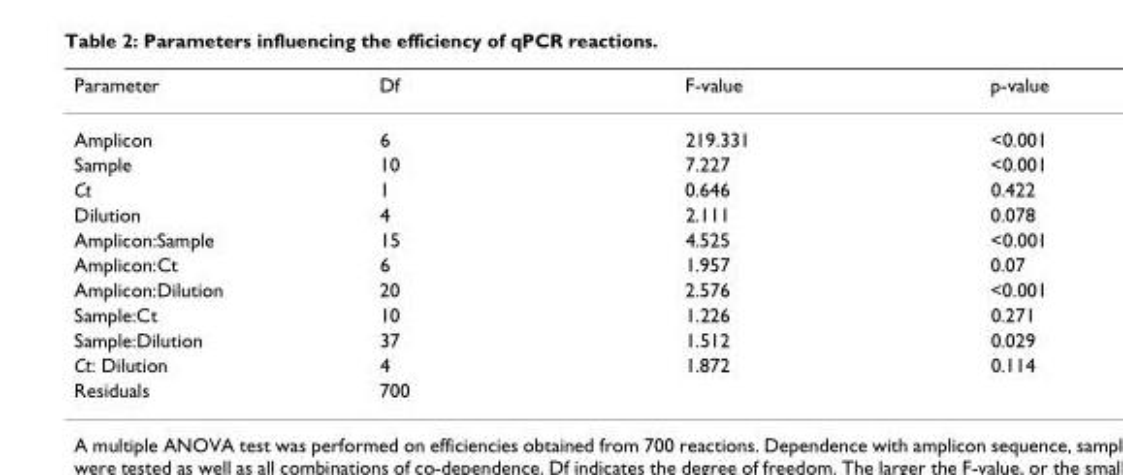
<table><thead><tr><td>Parameter</td><td>Df</td><td>F-value</td><td>p-value</td></tr></thead><tbody><tr><td>Amplicon</td><td>6</td><td>219.331</td><td>&lt;0.001</td></tr><tr><td>Sample</td><td>10</td><td>7.227</td><td>&lt;0.001</td></tr><tr><td>Ct</td><td>1</td><td>0.646</td><td>0.422</td></tr><tr><td>Dilution</td><td>4</td><td>2.111</td><td>0.078</td></tr><tr><td>Amplicon:Sample</td><td>15</td><td>4.525</td><td>&lt;0.001</td></tr><tr><td>Amplicon:Ct</td><td>6</td><td>1.957</td><td>0.07</td></tr><tr><td>Amplicon:Dilution</td><td>20</td><td>2.576</td><td>&lt;0.001</td></tr><tr><td>Sample:Ct</td><td>10</td><td>1.226</td><td>0.271</td></tr><tr><td>Sample:Dilution</td><td>37</td><td>1.512</td><td>0.029</td></tr><tr><td>Ct: Dilution</td><td>4</td><td>1.872</td><td>0.114</td></tr><tr><td>Residuals</td><td>700</td><td></td><td></td></tr></tbody></table>